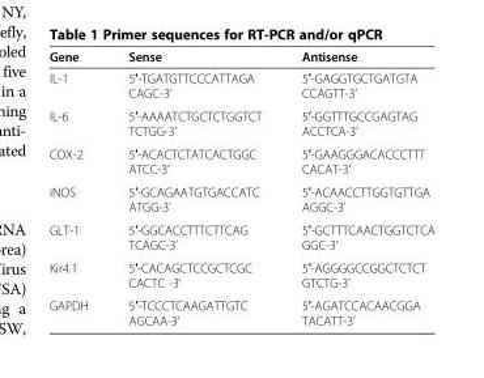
<table><thead><tr><td>Gene</td><td>Sense</td><td>Antisense</td></tr></thead><tbody><tr><td>IL-1</td><td>5′-TGATGTTCCCATTAGA CAGC-3’</td><td>5′-GAGGTGCTGATGTA CCAGTT-3’</td></tr><tr><td>IL-6</td><td>5′-AAAATCTGCTCTGGTCT TCTGG-3’</td><td>5′-GGTTTGCCGAGTAG ACCTCA-3’</td></tr><tr><td>COX-2</td><td>5′-ACACTCTATCACTGGC ATCC-3’</td><td>5′-GAAGGGACACCCTTT CACAT-3’</td></tr><tr><td>iNOS</td><td>5′-GCAGAATGTGACCATC ATGG-3’</td><td>5′-ACAACCTTGGTGTTGA AGGC-3’</td></tr><tr><td>GLT-1</td><td>5′-GGCACCTTTCTTCAG TCAGC-3’</td><td>5′-GCTTTCAACTGGTCTCA GGC-3’</td></tr><tr><td>Kir4.1</td><td>5′-CACAGCTCCGCTCGC CACTC -3’</td><td>5′-AGGGGCCGGCTCTCT GTCTG-3’</td></tr><tr><td>GAPDH</td><td>5′-TCCCTCAAGATTGTC AGCAA-3’</td><td>5′-AGATCCACAACGGA TACATT-3’</td></tr></tbody></table>